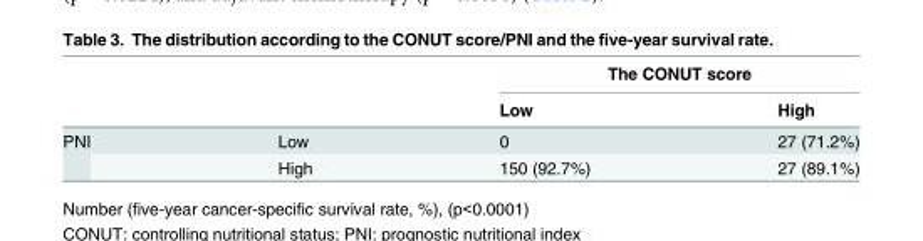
<table><thead><tr><td rowspan="2"></td><td rowspan="2"></td><td colspan="2">The CONUT score</td></tr><tr><td>Low</td><td>High</td></tr></thead><tbody><tr><td rowspan="2">PNI</td><td>Low</td><td>0</td><td>27 (71.2%)</td></tr><tr><td>High</td><td>150 (92.7%)</td><td>27 (89.1%)</td></tr></tbody></table>